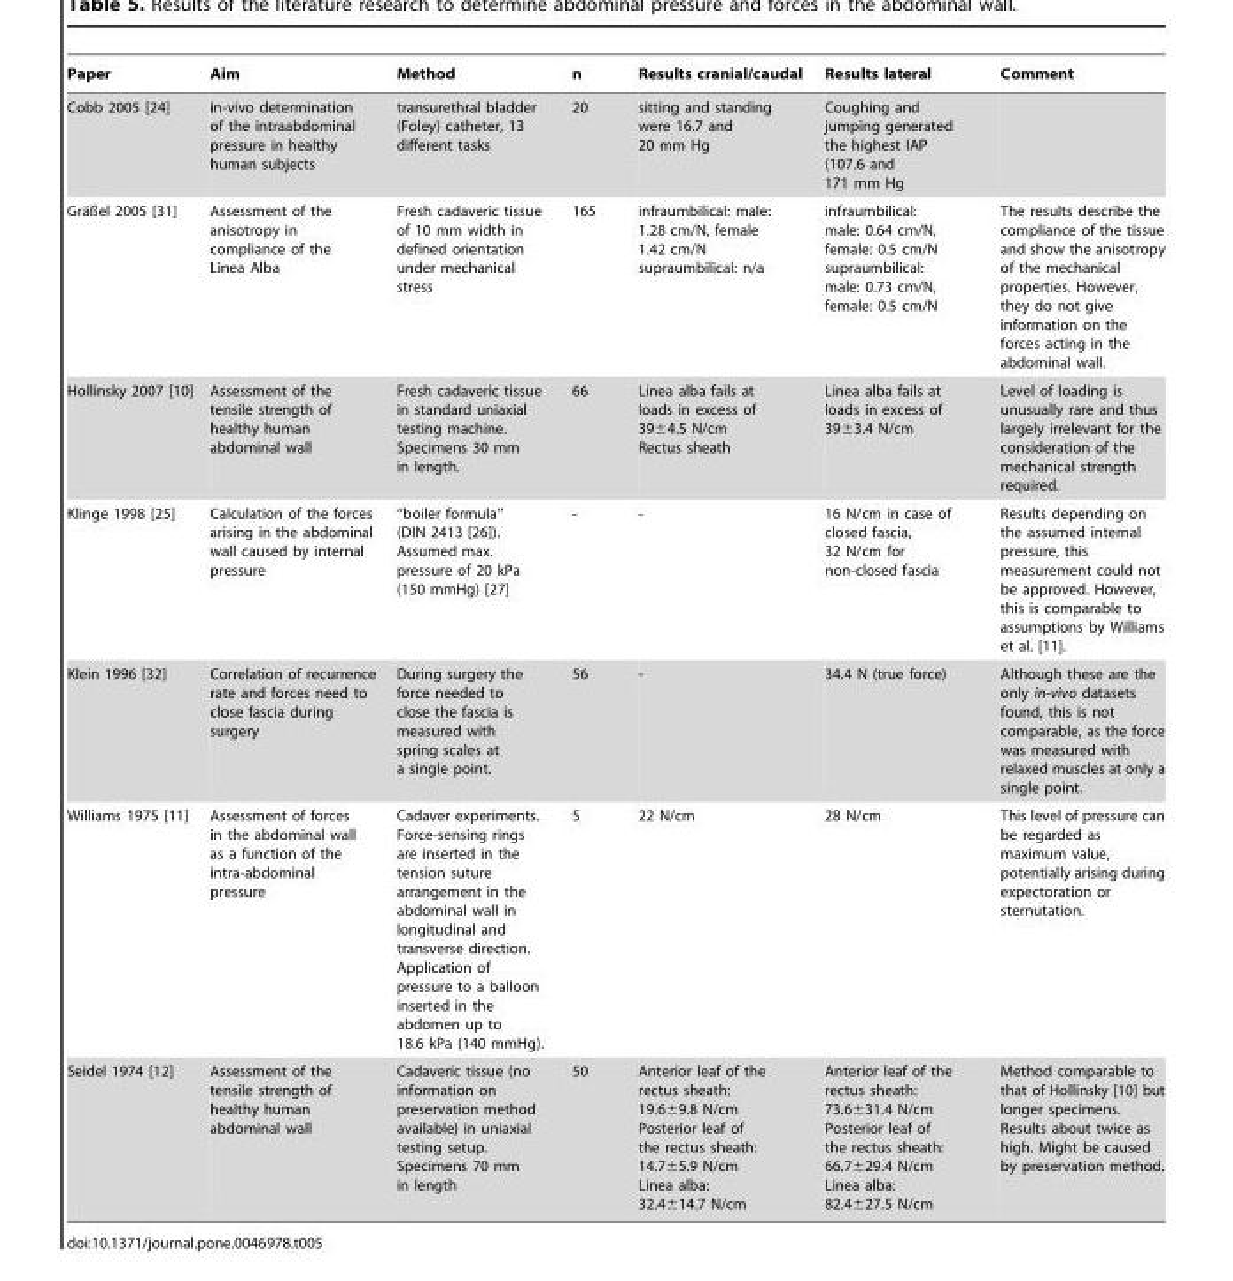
<table><thead><tr><td>Paper</td><td>Aim</td><td>Method</td><td>n</td><td>Results cranial/caudal</td><td>Results lateral</td><td>Comment</td></tr></thead><tbody><tr><td>Cobb 2005 [24]</td><td>in-vivo determination of the intraabdominal pressure in healthy human subjects</td><td>transurethral bladder (Foley) catheter, 13 different tasks</td><td>20</td><td>sitting and standing were 16.7 and 20 mm Hg</td><td>Coughing and jumping generated the highest IAP (107.6 and 171 mm Hg</td><td></td></tr><tr><td>Gra¨ßel 2005 [31]</td><td>Assessment of the anisotropy in compliance of the Linea Alba</td><td>Fresh cadaveric tissue of 10 mm width in defined orientation under mechanical stress</td><td>165</td><td>infraumbilical: male: 1.28 cm/N, female 1.42 cm/N supraumbilical: n/a</td><td>infraumbilical: male: 0.64 cm/N, female: 0.5 cm/N supraumbilical: male: 0.73 cm/N, female: 0.5 cm/N</td><td>The results describe the compliance of the tissue and show the anisotropy of the mechanical properties. However, they do not give information on the forces acting in the abdominal wall.</td></tr><tr><td>Hollinsky 2007 [10]</td><td>Assessment of the tensile strength of healthy human abdominal wall</td><td>Fresh cadaveric tissue in standard uniaxial testing machine. Specimens 30 mm in length.</td><td>66</td><td>Linea alba fails at loads in excess of 39±4.5 N/cm Rectus sheath</td><td>Linea alba fails at loads in excess of 39±3.4 N/cm</td><td>Level of loading is unusually rare and thus largely irrelevant for the consideration of the mechanical strength required.</td></tr><tr><td>Klinge 1998 [25]</td><td>Calculation of the forces arising in the abdominal wall caused by internal pressure</td><td>‘‘boiler formula’’ (DIN 2413 [26]). Assumed max. pressure of 20 kPa (150 mmHg) [27]</td><td>-</td><td>-</td><td>16 N/cm in case of closed fascia, 32 N/cm for non-closed fascia</td><td>Results depending on the assumed internal pressure, this measurement could not be approved. However, this is comparable to assumptions by Williams et al. [11].</td></tr><tr><td>Klein 1996 [32]</td><td>Correlation of recurrence rate and forces need to close fascia during surgery</td><td>During surgery the force needed to close the fascia is measured with spring scales at a single point.</td><td>56</td><td>-</td><td>34.4 N (true force)</td><td>Although these are the only in-vivo datasets found, this is not comparable, as the force was measured with relaxed muscles at only a single point.</td></tr><tr><td>Williams 1975 [11]</td><td>Assessment of forces in the abdominal wall as a function of the intra-abdominal pressure</td><td>Cadaver experiments. Force-sensing rings are inserted in the tension suture arrangement in the abdominal wall in longitudinal and transverse direction. Application of pressure to a balloon inserted in the abdomen up to 18.6 kPa (140 mmHg).</td><td>5</td><td>22 N/cm</td><td>28 N/cm</td><td>This level of pressure can be regarded as maximum value, potentially arising during expectoration or sternutation.</td></tr><tr><td>Seidel 1974 [12]</td><td>Assessment of the tensile strength of healthy human abdominal wall</td><td>Cadaveric tissue (no information on preservation method available) in uniaxial testing setup. Specimens 70 mm in length</td><td>50</td><td>Anterior leaf of the rectus sheath: 19.6±9.8 N/cm Posterior leaf of the rectus sheath: 14.7±5.9 N/cm Linea alba: 32.4±14.7 N/cm</td><td>Anterior leaf of the rectus sheath: 73.6±31.4 N/cm Posterior leaf of the rectus sheath: 66.7±29.4 N/cm Linea alba: 82.4±27.5 N/cm</td><td>Method comparable to that of Hollinsky [10] but longer specimens. Results about twice as high. Might be caused by preservation method.</td></tr></tbody></table>